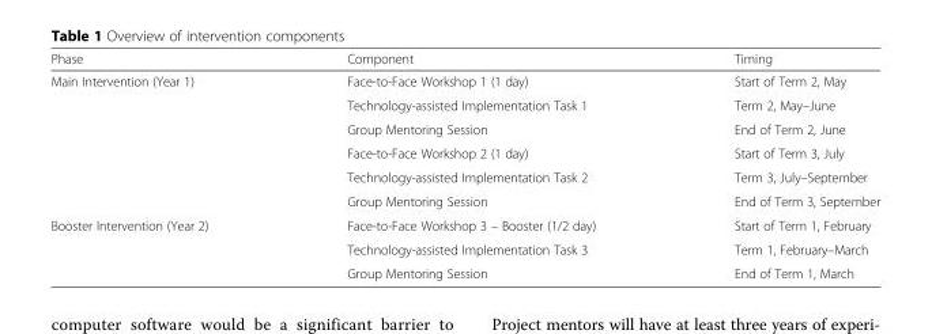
<table><thead><tr><td>Phase</td><td>Component</td><td>Timing</td></tr></thead><tbody><tr><td rowspan="6">Main Intervention (Year 1)</td><td>Face-to-Face Workshop 1 (1 day)</td><td>Start of Term 2, May</td></tr><tr><td>Technology-assisted Implementation Task 1</td><td>Term 2, May–June</td></tr><tr><td>Group Mentoring Session</td><td>End of Term 2, June</td></tr><tr><td>Face-to-Face Workshop 2 (1 day)</td><td>Start of Term 3, July</td></tr><tr><td>Technology-assisted Implementation Task 2</td><td>Term 3, July–September</td></tr><tr><td>Group Mentoring Session</td><td>End of Term 3, September</td></tr><tr><td rowspan="3">Booster Intervention (Year 2)</td><td>Face-to-Face Workshop 3 – Booster (1/2 day)</td><td>Start of Term 1, February</td></tr><tr><td>Technology-assisted Implementation Task 3</td><td>Term 1, February–March</td></tr><tr><td>Group Mentoring Session</td><td>End of Term 1, March</td></tr></tbody></table>